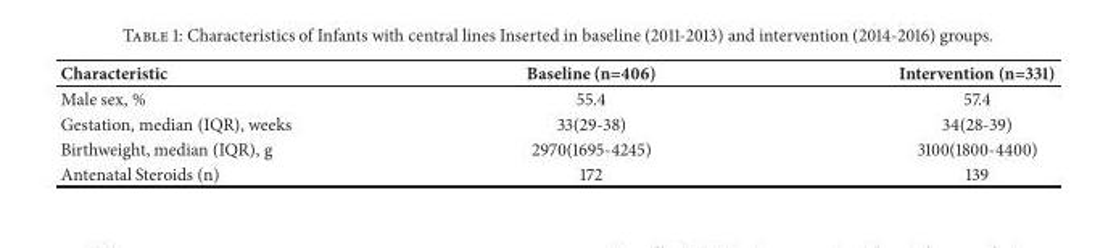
<table><thead><tr><td>Characteristic</td><td>Baseline (n=406)</td><td>Intervention (n=331)</td></tr></thead><tbody><tr><td>Male sex, %</td><td>55.4</td><td>57.4</td></tr><tr><td>Gestation, median (IQR), weeks</td><td>33(29-38)</td><td>34(28-39)</td></tr><tr><td>Birthweight, median (IQR), g</td><td>2970(1695-4245)</td><td>3100(1800-4400)</td></tr><tr><td>Antenatal Steroids (n)</td><td>172</td><td>139</td></tr></tbody></table>